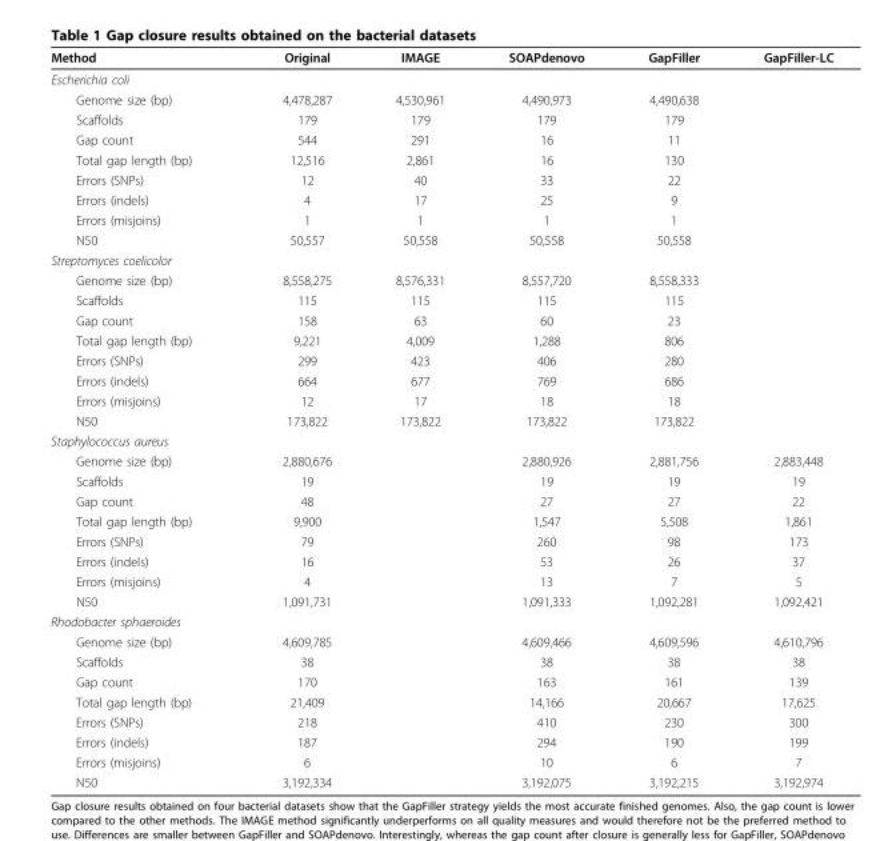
<table><thead><tr><td>Method</td><td>Original</td><td>IMAGE</td><td>SOAPdenovo</td><td>GapFiller</td><td>GapFiller-LC</td></tr></thead><tbody><tr><td colspan="6">Escherichia coli</td></tr><tr><td>Genome size (bp)</td><td>4,478,287</td><td>4,530,961</td><td>4,490,973</td><td>4,490,638</td><td></td></tr><tr><td>Scaffolds</td><td>179</td><td>179</td><td>179</td><td>179</td><td></td></tr><tr><td>Gap count</td><td>544</td><td>291</td><td>16</td><td>11</td><td></td></tr><tr><td>Total gap length (bp)</td><td>12,516</td><td>2,861</td><td>16</td><td>130</td><td></td></tr><tr><td>Errors (SNPs)</td><td>12</td><td>40</td><td>33</td><td>22</td><td></td></tr><tr><td>Errors (indels)</td><td>4</td><td>17</td><td>25</td><td>9</td><td></td></tr><tr><td>Errors (misjoins)</td><td>1</td><td>1</td><td>1</td><td>1</td><td></td></tr><tr><td>N50</td><td>50,557</td><td>50,558</td><td>50,558</td><td>50,558</td><td></td></tr><tr><td colspan="6">Streptomyces coelicolor</td></tr><tr><td>Genome size (bp)</td><td>8,558,275</td><td>8,576,331</td><td>8,557,720</td><td>8,558,333</td><td></td></tr><tr><td>Scaffolds</td><td>115</td><td>115</td><td>115</td><td>115</td><td></td></tr><tr><td>Gap count</td><td>158</td><td>63</td><td>60</td><td>23</td><td></td></tr><tr><td>Total gap length (bp)</td><td>9,221</td><td>4,009</td><td>1,288</td><td>806</td><td></td></tr><tr><td>Errors (SNPs)</td><td>299</td><td>423</td><td>406</td><td>280</td><td></td></tr><tr><td>Errors (indels)</td><td>664</td><td>677</td><td>769</td><td>686</td><td></td></tr><tr><td>Errors (misjoins)</td><td>12</td><td>17</td><td>18</td><td>18</td><td></td></tr><tr><td>N50</td><td>173,822</td><td>173,822</td><td>173,822</td><td>173,822</td><td></td></tr><tr><td colspan="6">Staphylococcus aureus</td></tr><tr><td>Genome size (bp)</td><td>2,880,676</td><td></td><td>2,880,926</td><td>2,881,756</td><td>2,883,448</td></tr><tr><td>Scaffolds</td><td>19</td><td></td><td>19</td><td>19</td><td>19</td></tr><tr><td>Gap count</td><td>48</td><td></td><td>27</td><td>27</td><td>22</td></tr><tr><td>Total gap length (bp)</td><td>9,900</td><td></td><td>1,547</td><td>5,508</td><td>1,861</td></tr><tr><td>Errors (SNPs)</td><td>79</td><td></td><td>260</td><td>98</td><td>173</td></tr><tr><td>Errors (indels)</td><td>16</td><td></td><td>53</td><td>26</td><td>37</td></tr><tr><td>Errors (misjoins)</td><td>4</td><td></td><td>13</td><td>7</td><td>5</td></tr><tr><td>N50</td><td>1,091,731</td><td></td><td>1,091,333</td><td>1,092,281</td><td>1,092,421</td></tr><tr><td colspan="6">Rhodobacter sphaeroides</td></tr><tr><td>Genome size (bp)</td><td>4,609,785</td><td></td><td>4,609,466</td><td>4,609,596</td><td>4,610,796</td></tr><tr><td>Scaffolds</td><td>38</td><td></td><td>38</td><td>38</td><td>38</td></tr><tr><td>Gap count</td><td>170</td><td></td><td>163</td><td>161</td><td>139</td></tr><tr><td>Total gap length (bp)</td><td>21,409</td><td></td><td>14,166</td><td>20,667</td><td>17,625</td></tr><tr><td>Errors (SNPs)</td><td>218</td><td></td><td>410</td><td>230</td><td>300</td></tr><tr><td>Errors (indels)</td><td>187</td><td></td><td>294</td><td>190</td><td>199</td></tr><tr><td>Errors (misjoins)</td><td>6</td><td></td><td>10</td><td>6</td><td>7</td></tr><tr><td>N50</td><td>3,192,334</td><td></td><td>3,192,075</td><td>3,192,215</td><td>3,192,974</td></tr></tbody></table>